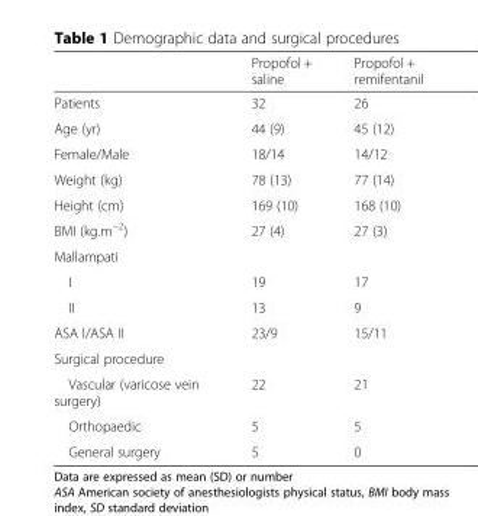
<table><thead><tr><td></td><td>Propofol + saline</td><td>Propofol + remifentanil</td></tr></thead><tbody><tr><td>Patients</td><td>32</td><td>26</td></tr><tr><td>Age (yr)</td><td>44 (9)</td><td>45 (12)</td></tr><tr><td>Female/Male</td><td>18/14</td><td>14/12</td></tr><tr><td>Weight (kg)</td><td>78 (13)</td><td>77 (14)</td></tr><tr><td>Height (cm)</td><td>169 (10)</td><td>168 (10)</td></tr><tr><td>BMI (kg.m<sup>−2</sup>)</td><td>27 (4)</td><td>27 (3)</td></tr><tr><td colspan="3">Mallampati</td></tr><tr><td>I</td><td>19</td><td>17</td></tr><tr><td>II</td><td>13</td><td>9</td></tr><tr><td>ASA I/ASA II</td><td>23/9</td><td>15/11</td></tr><tr><td colspan="3">Surgical procedure</td></tr><tr><td>Vascular (varicose vein surgery)</td><td>22</td><td>21</td></tr><tr><td>Orthopaedic</td><td>5</td><td>5</td></tr><tr><td>General surgery</td><td>5</td><td>0</td></tr></tbody></table>